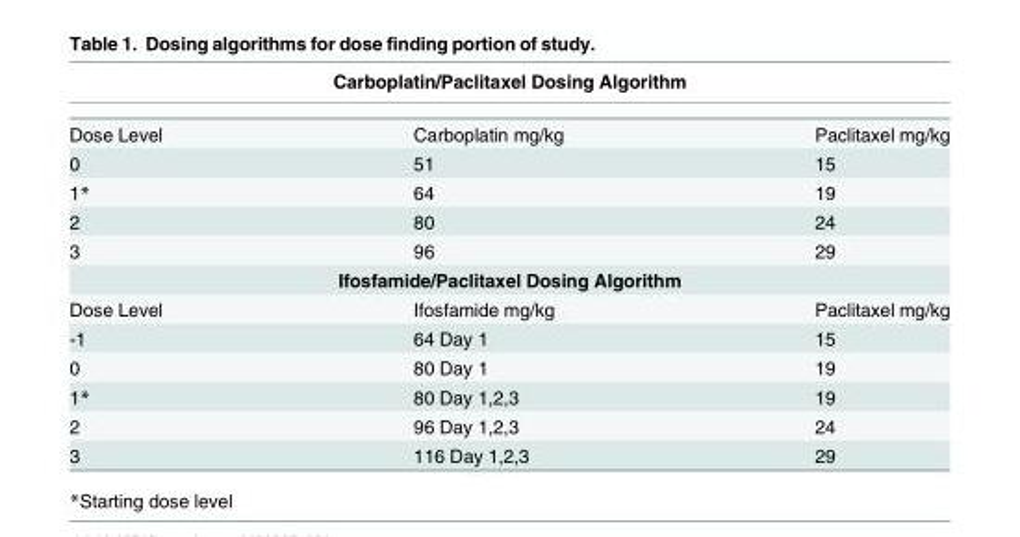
<table><thead><tr><td colspan="3">Carboplatin/Paclitaxel Dosing Algorithm</td></tr><tr><td>Dose Level</td><td>Carboplatin mg/kg</td><td>Paclitaxel mg/kg</td></tr></thead><tbody><tr><td>0</td><td>51</td><td>15</td></tr><tr><td>1*</td><td>64</td><td>19</td></tr><tr><td>2</td><td>80</td><td>24</td></tr><tr><td>3</td><td>96</td><td>29</td></tr><tr><td colspan="3">Ifosfamide/Paclitaxel Dosing Algorithm</td></tr><tr><td>Dose Level</td><td>Ifosfamide mg/kg</td><td>Paclitaxel mg/kg</td></tr><tr><td>-1</td><td>64 Day 1</td><td>15</td></tr><tr><td>0</td><td>80 Day 1</td><td>19</td></tr><tr><td>1*</td><td>80 Day 1,2,3</td><td>19</td></tr><tr><td>2</td><td>96 Day 1,2,3</td><td>24</td></tr><tr><td>3</td><td>116 Day 1,2,3</td><td>29</td></tr></tbody></table>